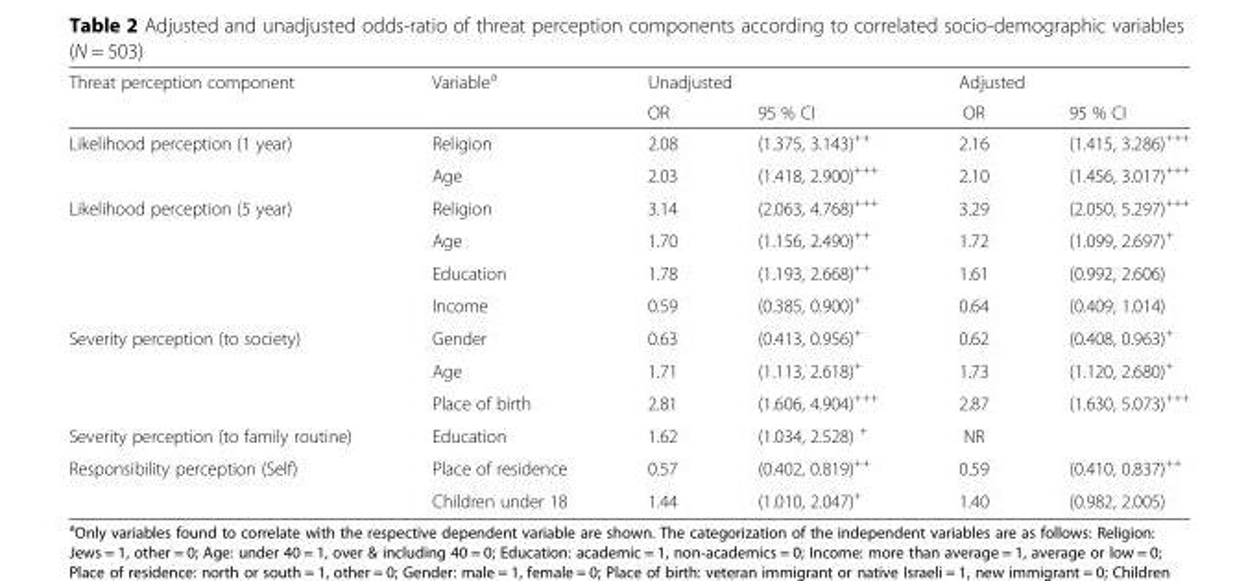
<table><thead><tr><td rowspan="2">Threat perception component</td><td rowspan="2">Variable<sup>a</sup></td><td colspan="2">Unadjusted</td><td colspan="2">Adjusted</td></tr><tr><td>OR</td><td>95 % CI</td><td>OR</td><td>95 % CI</td></tr></thead><tbody><tr><td rowspan="2">Likelihood perception (1 year)</td><td>Religion</td><td>2.08</td><td>(1.375, 3.143)<sup>++</sup></td><td>2.16</td><td>(1.415, 3.286)<sup>+++</sup></td></tr><tr><td>Age</td><td>2.03</td><td>(1.418, 2.900)<sup>+++</sup></td><td>2.10</td><td>(1.456, 3.017)<sup>+++</sup></td></tr><tr><td rowspan="4">Likelihood perception (5 year)</td><td>Religion</td><td>3.14</td><td>(2.063, 4.768)<sup>+++</sup></td><td>3.29</td><td>(2.050, 5.297)<sup>+++</sup></td></tr><tr><td>Age</td><td>1.70</td><td>(1.156, 2.490)<sup>++</sup></td><td>1.72</td><td>(1.099, 2.697)<sup>+</sup></td></tr><tr><td>Education</td><td>1.78</td><td>(1.193, 2.668)<sup>++</sup></td><td>1.61</td><td>(0.992, 2.606)</td></tr><tr><td>Income</td><td>0.59</td><td>(0.385, 0.900)<sup>+</sup></td><td>0.64</td><td>(0.409, 1.014)</td></tr><tr><td rowspan="3">Severity perception (to society)</td><td>Gender</td><td>0.63</td><td>(0.413, 0.956)<sup>+</sup></td><td>0.62</td><td>(0.408, 0.963)<sup>+</sup></td></tr><tr><td>Age</td><td>1.71</td><td>(1.113, 2.618)<sup>+</sup></td><td>1.73</td><td>(1.120, 2.680)<sup>+</sup></td></tr><tr><td>Place of birth</td><td>2.81</td><td>(1.606, 4.904)<sup>+++</sup></td><td>2.87</td><td>(1.630, 5.073)<sup>+++</sup></td></tr><tr><td>Severity perception (to family routine)</td><td>Education</td><td>1.62</td><td>(1.034, 2.528) <sup>+</sup></td><td>NR</td><td></td></tr><tr><td rowspan="2">Responsibility perception (Self)</td><td>Place of residence</td><td>0.57</td><td>(0.402, 0.819)<sup>++</sup></td><td>0.59</td><td>(0.410, 0.837)<sup>++</sup></td></tr><tr><td>Children under 18</td><td>1.44</td><td>(1.010, 2.047)<sup>+</sup></td><td>1.40</td><td>(0.982, 2.005)</td></tr></tbody></table>